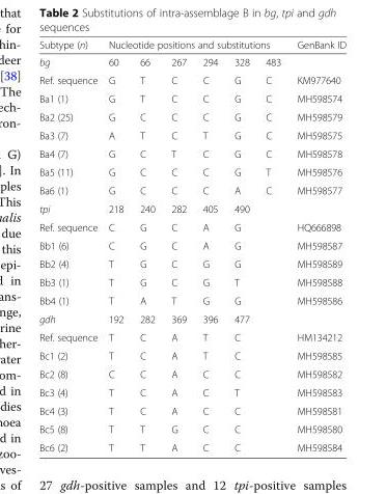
<table><thead><tr><td rowspan="2">Subtype (n) bg</td><td colspan="6">Nucleotide positions and substitutions</td><td rowspan="2">GenBank ID</td></tr><tr><td>60</td><td>66</td><td>267</td><td>294</td><td>328</td><td>483</td></tr></thead><tbody><tr><td>Ref. sequence</td><td>G</td><td>T</td><td>C</td><td>C</td><td>G</td><td>C</td><td>KM977640</td></tr><tr><td>Ba1 (1)</td><td>G</td><td>T</td><td>C</td><td>C</td><td>G</td><td>C</td><td>MH598574</td></tr><tr><td>Ba2 (25)</td><td>G</td><td>C</td><td>C</td><td>C</td><td>G</td><td>C</td><td>MH598579</td></tr><tr><td>Ba3 (7)</td><td>A</td><td>T</td><td>C</td><td>T</td><td>G</td><td>C</td><td>MH598575</td></tr><tr><td>Ba4 (7)</td><td>G</td><td>C</td><td>T</td><td>C</td><td>G</td><td>C</td><td>MH598578</td></tr><tr><td>Ba5 (11)</td><td>G</td><td>C</td><td>C</td><td>C</td><td>G</td><td>T</td><td>MH598576</td></tr><tr><td>Ba6 (1)</td><td>G</td><td>C</td><td>C</td><td>C</td><td>A</td><td>C</td><td>MH598577</td></tr><tr><td>tpi</td><td>218</td><td>240</td><td>282</td><td>405</td><td>490</td><td></td><td></td></tr><tr><td>Ref. sequence</td><td>C</td><td>G</td><td>C</td><td>A</td><td>G</td><td></td><td>HQ666898</td></tr><tr><td>Bb1 (6)</td><td>C</td><td>G</td><td>C</td><td>A</td><td>G</td><td></td><td>MH598587</td></tr><tr><td>Bb2 (4)</td><td>T</td><td>G</td><td>C</td><td>G</td><td>G</td><td></td><td>MH598589</td></tr><tr><td>Bb3 (1)</td><td>T</td><td>G</td><td>C</td><td>G</td><td>T</td><td></td><td>MH598588</td></tr><tr><td>Bb4 (1)</td><td>T</td><td>A</td><td>T</td><td>G</td><td>G</td><td></td><td>MH598586</td></tr><tr><td>gdh</td><td>192</td><td>282</td><td>369</td><td>396</td><td>477</td><td></td><td></td></tr><tr><td>Ref. sequence</td><td>T</td><td>C</td><td>A</td><td>T</td><td>C</td><td></td><td>HM134212</td></tr><tr><td>Bc1 (2)</td><td>T</td><td>C</td><td>A</td><td>T</td><td>C</td><td></td><td>MH598585</td></tr><tr><td>Bc2 (8)</td><td>C</td><td>C</td><td>A</td><td>C</td><td>C</td><td></td><td>MH598582</td></tr><tr><td>Bc3 (4)</td><td>T</td><td>C</td><td>A</td><td>C</td><td>T</td><td></td><td>MH598583</td></tr><tr><td>Bc4 (3)</td><td>T</td><td>C</td><td>A</td><td>C</td><td>C</td><td></td><td>MH598581</td></tr><tr><td>Bc5 (8)</td><td>T</td><td>T</td><td>G</td><td>C</td><td>C</td><td></td><td>MH598580</td></tr><tr><td>Bc6 (2)</td><td>T</td><td>T</td><td>A</td><td>C</td><td>C</td><td></td><td>MH598584</td></tr></tbody></table>